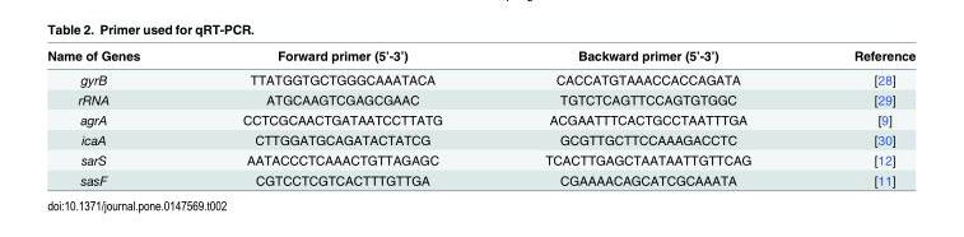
<table><thead><tr><td>Name of Genes</td><td>Forward primer (5’-3’)</td><td>Backward primer (5’-3’)</td><td>Reference</td></tr></thead><tbody><tr><td>gyrB</td><td>TTATGGTGCTGGGCAAATACA</td><td>CACCATGTAAACCACCAGATA</td><td>[28]</td></tr><tr><td>rRNA</td><td>ATGCAAGTCGAGCGAAC</td><td>TGTCTCAGTTCCAGTGTGGC</td><td>[29]</td></tr><tr><td>agrA</td><td>CCTCGCAACTGATAATCCTTATG</td><td>ACGAATTTCACTGCCTAATTTGA</td><td>[9]</td></tr><tr><td>icaA</td><td>CTTGGATGCAGATACTATCG</td><td>GCGTTGCTTCCAAAGACCTC</td><td>[30]</td></tr><tr><td>sarS</td><td>AATACCCTCAAACTGTTAGAGC</td><td>TCACTTGAGCTAATAATTGTTCAG</td><td>[12]</td></tr><tr><td>sasF</td><td>CGTCCTCGTCACTTTGTTGA</td><td>CGAAAACAGCATCGCAAATA</td><td>[11]</td></tr></tbody></table>